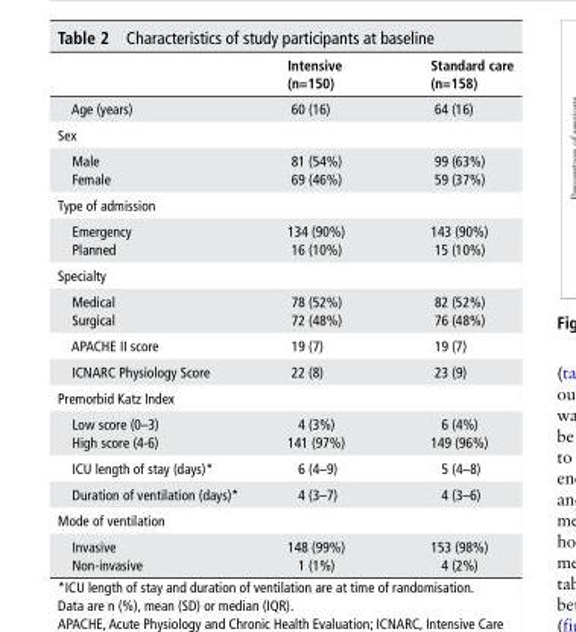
<table><thead><tr><td></td><td>Intensive (n=150)</td><td>standard care (n=158)</td></tr></thead><tbody><tr><td>Age (years)</td><td>60 (16)</td><td>64 (16)</td></tr><tr><td colspan="3">Sex</td></tr><tr><td>Male Female</td><td>81 (54%) 69 (46%)</td><td>99 (63%) 59 (37%)</td></tr><tr><td colspan="3">Type of admission</td></tr><tr><td>Emergency Planned</td><td>134 (90%) 16 (10%)</td><td>143 (90%) 15 (10%)</td></tr><tr><td colspan="3">Specialty</td></tr><tr><td>Medical Surgical</td><td>78 (52%) 72 (48%)</td><td>82 (52%) 76 (48%)</td></tr><tr><td>APACHE II score</td><td>19 (7)</td><td>19 (7)</td></tr><tr><td>ICNARC Physiology Score</td><td>22 (8)</td><td>23 (9)</td></tr><tr><td colspan="3">Premorbid Katz Index</td></tr><tr><td>Low score (0–3) High score (4-6)</td><td>4 (3%) 141 (97%)</td><td>6 (4%) 149 (96%)</td></tr><tr><td>ICU length of stay (days)*</td><td>6 (4–9)</td><td>5 (4–8)</td></tr><tr><td>Duration of ventilation (days)*</td><td>4 (3–7)</td><td>4 (3–6)</td></tr><tr><td colspan="3">Mode of ventilation</td></tr><tr><td>Invasive Non-invasive</td><td>148 (99%) 1 (1%)</td><td>153 (98%) 4 (2%)</td></tr></tbody></table>